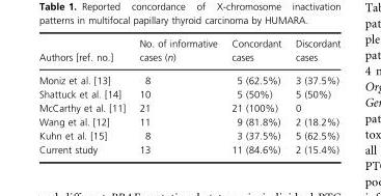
<table><thead><tr><td>Authors [ref. no.]</td><td>No. of informative cases (n)</td><td>Concordant cases</td><td>Discordant cases</td></tr></thead><tbody><tr><td>Moniz et al. [13]</td><td>8</td><td>5 (62.5%)</td><td>3 (37.5%)</td></tr><tr><td>Shattuck et al. [14]</td><td>10</td><td>5 (50%)</td><td>5 (50%)</td></tr><tr><td>McCarthy et al. [11]</td><td>21</td><td>21 (100%)</td><td>0</td></tr><tr><td>Wang et al. [12]</td><td>11</td><td>9 (81.8%)</td><td>2 (18.2%)</td></tr><tr><td>Kuhn et al. [15]</td><td>8</td><td>3 (37.5%)</td><td>5 (62.5%)</td></tr><tr><td>Current study</td><td>13</td><td>11 (84.6%)</td><td>2 (15.4%)</td></tr></tbody></table>